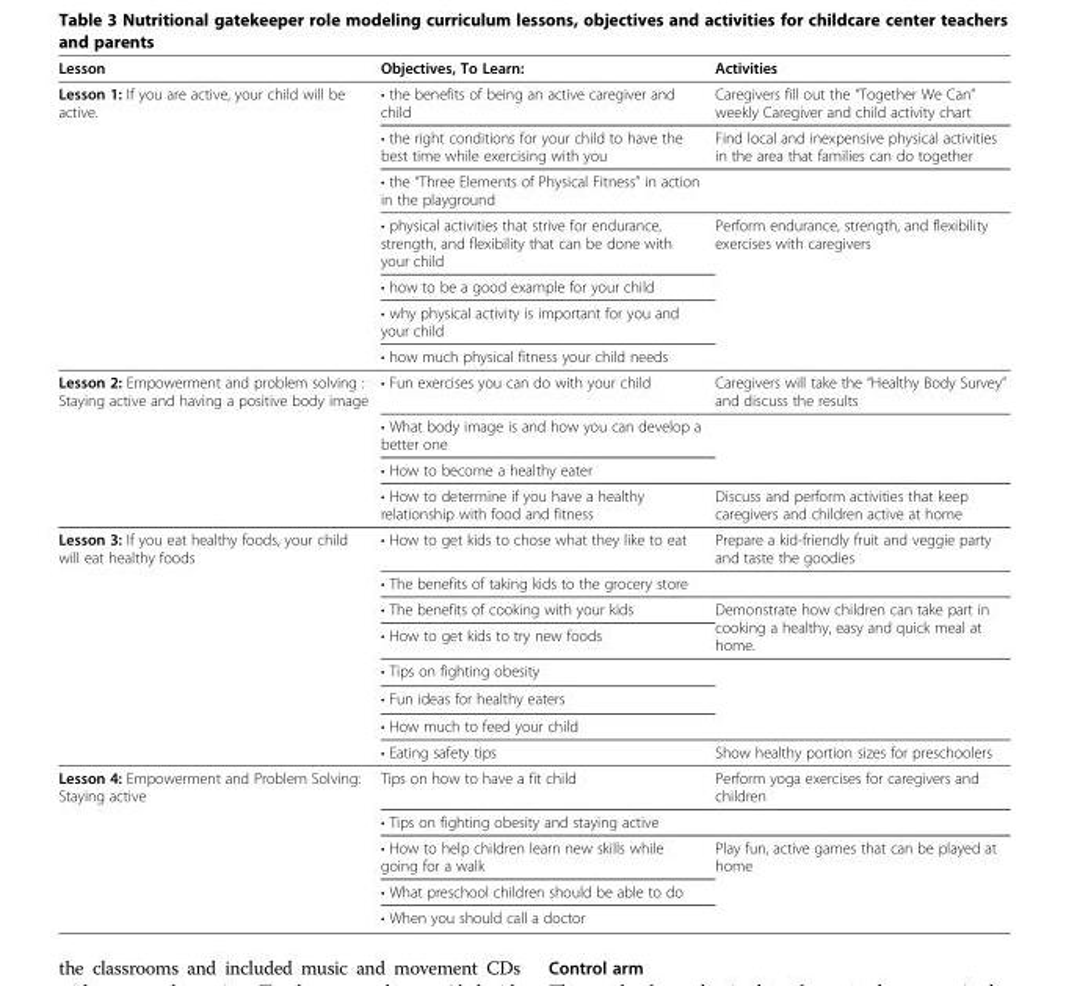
<table><thead><tr><td>Lesson</td><td>Objectives, To Learn:</td><td>Activities</td></tr></thead><tbody><tr><td rowspan="7">Lesson 1: If you are active, your child will be active.</td><td>• the benefits of being an active caregiver and child</td><td>Caregivers fill out the “Together We Can” weekly Caregiver and child activity chart</td></tr><tr><td>• the right conditions for your child to have the best time while exercising with you</td><td>Find local and inexpensive physical activities in the area that families can do together</td></tr><tr><td>• the “Three Elements of Physical Fitness” in action in the playground</td><td></td></tr><tr><td>• physical activities that strive for endurance, strength, and flexibility that can be done with your child</td><td rowspan="4">Perform endurance, strength, and flexibility exercises with caregivers</td></tr><tr><td>• how to be a good example for your child</td></tr><tr><td>• why physical activity is important for you and your child</td></tr><tr><td>• how much physical fitness your child needs</td></tr><tr><td rowspan="4">Lesson 2: Empowerment and problem solving : Staying active and having a positive body image</td><td>• Fun exercises you can do with your child</td><td>Caregivers will take the “Healthy Body Survey” and discuss the results</td></tr><tr><td>• What body image is and how you can develop a better one</td><td></td></tr><tr><td>• How to become a healthy eater</td><td></td></tr><tr><td>• How to determine if you have a healthy relationship with food and fitness</td><td>Discuss and perform activities that keep caregivers and children active at home</td></tr><tr><td rowspan="8">Lesson 3: If you eat healthy foods, your child will eat healthy foods</td><td>• How to get kids to chose what they like to eat</td><td>Prepare a kid-friendly fruit and veggie party and taste the goodies</td></tr><tr><td>• The benefits of taking kids to the grocery store</td><td></td></tr><tr><td>• The benefits of cooking with your kids</td><td rowspan="2">Demonstrate how children can take part in cooking a healthy, easy and quick meal at home.</td></tr><tr><td>• How to get kids to try new foods</td></tr><tr><td>• Tips on fighting obesity</td><td></td></tr><tr><td>• Fun ideas for healthy eaters</td><td></td></tr><tr><td>• How much to feed your child</td><td></td></tr><tr><td>• Eating safety tips</td><td>Show healthy portion sizes for preschoolers</td></tr><tr><td rowspan="5">Lesson 4: Empowerment and Problem Solving: Staying active</td><td>Tips on how to have a fit child</td><td>Perform yoga exercises for caregivers and children</td></tr><tr><td>• Tips on fighting obesity and staying active</td><td></td></tr><tr><td>• How to help children learn new skills while going for a walk</td><td rowspan="3">Play fun, active games that can be played at home</td></tr><tr><td>• What preschool children should be able to do</td></tr><tr><td>• When you should call a doctor</td></tr></tbody></table>